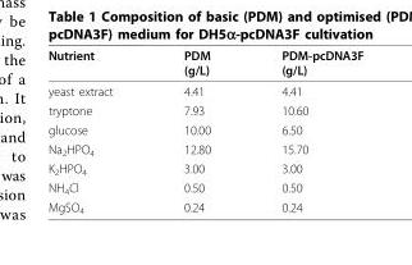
<table><thead><tr><td>Nutrient</td><td>PDM (g/L)</td><td>PDM-pcDNA3F (g/L)</td></tr></thead><tbody><tr><td>yeast extract</td><td>4.41</td><td>4.41</td></tr><tr><td>tryptone</td><td>7.93</td><td>10.60</td></tr><tr><td>glucose</td><td>10.00</td><td>6.50</td></tr><tr><td>Na<sub>2</sub>HPO<sub>4</sub></td><td>12.80</td><td>15.70</td></tr><tr><td>K<sub>2</sub>HPO<sub>4</sub></td><td>3.00</td><td>3.00</td></tr><tr><td>NH<sub>4</sub>Cl</td><td>0.50</td><td>0.50</td></tr><tr><td>MgSO<sub>4</sub></td><td>0.24</td><td>0.24</td></tr></tbody></table>